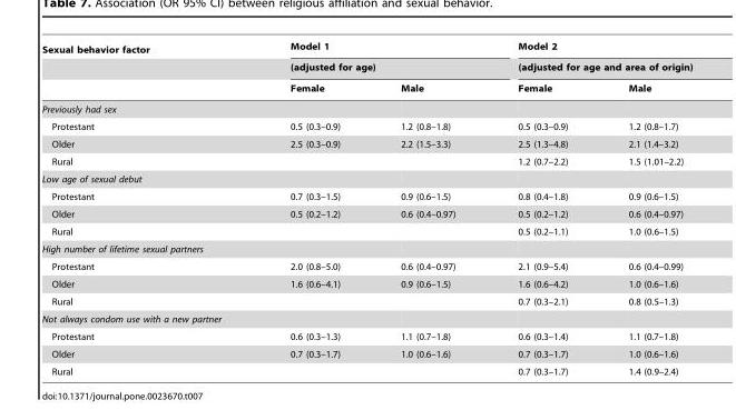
<table><thead><tr><td rowspan="3">Sexual behavior factor</td><td rowspan="2" colspan="2">Model 1 (adjusted for age)</td><td rowspan="2" colspan="2">Model 2 (adjusted for age and area of origin)</td></tr><tr></tr><tr><td>Female</td><td>Male</td><td>Female</td><td>Male</td></tr></thead><tbody><tr><td colspan="5">Previously had sex</td></tr><tr><td>Protestant</td><td>0.5 (0.3–0.9)</td><td>1.2 (0.8–1.8)</td><td>0.5 (0.3–0.9)</td><td>1.2 (0.8–1.7)</td></tr><tr><td>Older</td><td>2.5 (0.3–0.9)</td><td>2.2 (1.5–3.3)</td><td>2.5 (1.3–4.8)</td><td>2.1 (1.4–3.2)</td></tr><tr><td>Rural</td><td></td><td></td><td>1.2 (0.7–2.2)</td><td>1.5 (1.01–2.2)</td></tr><tr><td colspan="5">Low age of sexual debut</td></tr><tr><td>Protestant</td><td>0.7 (0.3–1.5)</td><td>0.9 (0.6–1.5)</td><td>0.8 (0.4–1.8)</td><td>0.9 (0.6–1.5)</td></tr><tr><td>Older</td><td>0.5 (0.2–1.2)</td><td>0.6 (0.4–0.97)</td><td>0.5 (0.2–1.2)</td><td>0.6 (0.4–0.97)</td></tr><tr><td>Rural</td><td></td><td></td><td>0.5 (0.2–1.1)</td><td>1.0 (0.6–1.5)</td></tr><tr><td colspan="5">High number of lifetime sexual partners</td></tr><tr><td>Protestant</td><td>2.0 (0.8–5.0)</td><td>0.6 (0.4–0.97)</td><td>2.1 (0.9–5.4)</td><td>0.6 (0.4–0.99)</td></tr><tr><td>Older</td><td>1.6 (0.6–4.1)</td><td>0.9 (0.6–1.5)</td><td>1.6 (0.6–4.2)</td><td>1.0 (0.6–1.6)</td></tr><tr><td>Rural</td><td></td><td></td><td>0.7 (0.3–2.1)</td><td>0.8 (0.5–1.3)</td></tr><tr><td colspan="5">Not always condom use with a new partner</td></tr><tr><td>Protestant</td><td>0.6 (0.3–1.3)</td><td>1.1 (0.7–1.8)</td><td>0.6 (0.3–1.4)</td><td>1.1 (0.7–1.8)</td></tr><tr><td>Older</td><td>0.7 (0.3–1.7)</td><td>1.0 (0.6–1.6)</td><td>0.7 (0.3–1.7)</td><td>1.0 (0.6–1.6)</td></tr><tr><td>Rural</td><td></td><td></td><td>0.7 (0.3–1.7)</td><td>1.4 (0.9–2.4)</td></tr></tbody></table>